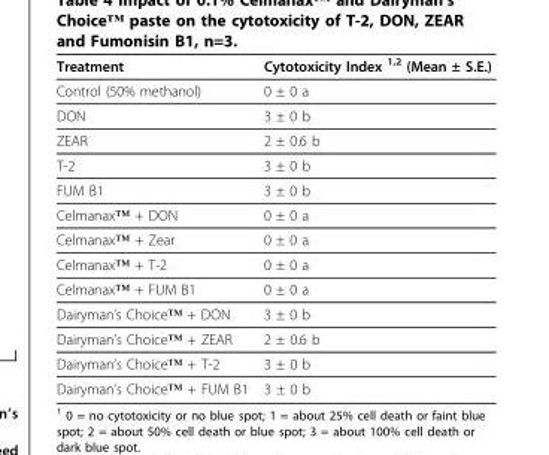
<table><thead><tr><td>Treatment</td><td>Cytotoxicity Index <sup>1,2</sup> (Mean ± S.E.)</td></tr></thead><tbody><tr><td>Control (50% methanol)</td><td>0 ± 0 a</td></tr><tr><td>DON</td><td>3 ± 0 b</td></tr><tr><td>ZEAR</td><td>2 ± 0.6 b</td></tr><tr><td>T-2</td><td>3 ± 0 b</td></tr><tr><td>FUM B1</td><td>3 ± 0 b</td></tr><tr><td>Celmanax™ + DON</td><td>0 ± 0 a</td></tr><tr><td>Celmanax™ + Zear</td><td>0 ± 0 a</td></tr><tr><td>Celmanax™ + T-2</td><td>0 ± 0 a</td></tr><tr><td>Celmanax™ + FUM B1</td><td>0 ± 0 a</td></tr><tr><td>Dairyman’s Choice™ + DON</td><td>3 ± 0 b</td></tr><tr><td>Dairyman’s Choice™ + ZEAR</td><td>2 ± 0.6 b</td></tr><tr><td>Dairyman’s Choice™ + T-2</td><td>3 ± 0 b</td></tr><tr><td>Dairyman’s Choice™ + FUM B1</td><td>3 ± 0 b</td></tr></tbody></table>